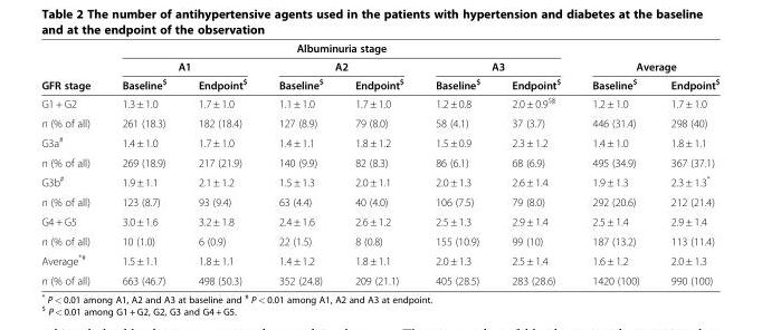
<table><thead><tr><td rowspan="3">GFR stage</td><td colspan="6">Albuminuria stage</td><td></td><td></td></tr><tr><td colspan="2">A1</td><td colspan="2">A2</td><td colspan="2">A3</td><td colspan="2">Average</td></tr><tr><td>Baseline<sup>$</sup></td><td>Endpoint<sup>$</sup></td><td>Baseline<sup>$</sup></td><td>Endpoint<sup>$</sup></td><td>Baseline<sup>$</sup></td><td>Endpoint<sup>$</sup></td><td>Baseline<sup>$</sup></td><td>Endpoint<sup>$</sup></td></tr></thead><tbody><tr><td>G1 + G2</td><td>1.3 ± 1.0</td><td>1.7 ± 1.0</td><td>1.1 ± 1.0</td><td>1.7 ± 1.0</td><td>1.2 ± 0.8</td><td>2.0 ± 0.9<sup>$§</sup></td><td>1.2 ± 1.0</td><td>1.7 ± 1.0</td></tr><tr><td>n (% of all)</td><td>261 (18.3)</td><td>182 (18.4)</td><td>127 (8.9)</td><td>79 (8.0)</td><td>58 (4.1)</td><td>37 (3.7)</td><td>446 (31.4)</td><td>298 (40)</td></tr><tr><td>G3a<sup>#</sup></td><td>1.4 ± 1.0</td><td>1.7 ± 1.0</td><td>1.4 ± 1.1</td><td>1.8 ± 1.2</td><td>1.5 ± 0.9</td><td>2.3 ± 1.2</td><td>1.4 ± 1.0</td><td>1.8 ± 1.1</td></tr><tr><td>n (% of all)</td><td>269 (18.9)</td><td>217 (21.9)</td><td>140 (9.9)</td><td>82 (8.3)</td><td>86 (6.1)</td><td>68 (6.9)</td><td>495 (34.9)</td><td>367 (37.1)</td></tr><tr><td>G3b<sup>#</sup></td><td>1.9 ± 1.1</td><td>2.1 ± 1.2</td><td>1.5 ± 1.3</td><td>2.0 ± 1.1</td><td>2.0 ± 1.3</td><td>2.6 ± 1.4</td><td>1.9 ± 1.3</td><td>2.3 ± 1.3*</td></tr><tr><td>n (% of all)</td><td>123 (8.7)</td><td>93 (9.4)</td><td>63 (4.4)</td><td>40 (4.0)</td><td>106 (7.5)</td><td>79 (8.0)</td><td>292 (20.6)</td><td>212 (21.4)</td></tr><tr><td>G4 + G5</td><td>3.0 ± 1.6</td><td>3.2 ± 1.8</td><td>2.4 ± 1.6</td><td>2.6 ± 1.2</td><td>2.5 ± 1.3</td><td>2.9 ± 1.4</td><td>2.5 ± 1.4</td><td>2.9 ± 1.4</td></tr><tr><td>n (% of all)</td><td>10 (1.0)</td><td>6 (0.9)</td><td>22 (1.5)</td><td>8 (0.8)</td><td>155 (10.9)</td><td>99 (10)</td><td>187 (13.2)</td><td>113 (11.4)</td></tr><tr><td>Average<sup>*#</sup></td><td>1.5 ± 1.1</td><td>1.8 ± 1.1</td><td>1.4 ± 1.2</td><td>1.8 ± 1.1</td><td>2.0 ± 1.3</td><td>2.5 ± 1.4</td><td>1.6 ± 1.2</td><td>2.0 ± 1.3</td></tr><tr><td>n (% of all)</td><td>663 (46.7)</td><td>498 (50.3)</td><td>352 (24.8)</td><td>209 (21.1)</td><td>405 (28.5)</td><td>283 (28.6)</td><td>1420 (100)</td><td>990 (100)</td></tr></tbody></table>